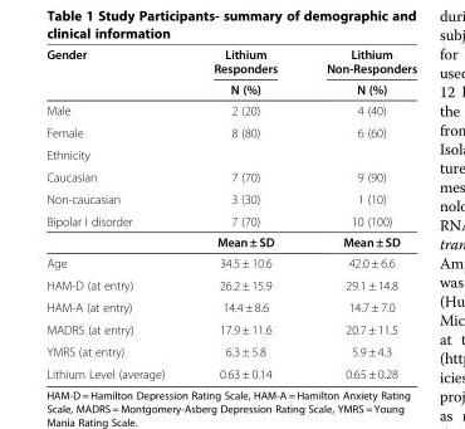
<table><thead><tr><td rowspan="2">Gender</td><td rowspan="2">Lithium Responders N (%)</td><td rowspan="2">Lithium Non-Responders N (%)</td></tr><tr></tr></thead><tbody><tr><td>Male</td><td>2 (20)</td><td>4 (40)</td></tr><tr><td>Female</td><td>8 (80)</td><td>6 (60)</td></tr><tr><td colspan="3">Ethnicity</td></tr><tr><td>Caucasian</td><td>7 (70)</td><td>9 (90)</td></tr><tr><td>Non-caucasian</td><td>3 (30)</td><td>1 (10)</td></tr><tr><td rowspan="2">Bipolar I disorder</td><td>7 (70)</td><td>10 (100)</td></tr><tr><td>Mean ± SD</td><td>Mean ± SD</td></tr><tr><td>Age</td><td>34.5 ± 10.6</td><td>42.0 ± 6.6</td></tr><tr><td>HAM-D (at entry)</td><td>26.2 ± 15.9</td><td>29.1 ± 14.8</td></tr><tr><td>HAM-A (at entry)</td><td>14.4 ± 8.6</td><td>14.7 ± 7.0</td></tr><tr><td>MADRS (at entry)</td><td>17.9 ± 11.6</td><td>20.7 ± 11.5</td></tr><tr><td>YMRS (at entry)</td><td>6.3 ± 5.8</td><td>5.9 ± 4.3</td></tr><tr><td>Lithium Level (average)</td><td>0.63 ± 0.14</td><td>0.65 ± 0.28</td></tr></tbody></table>